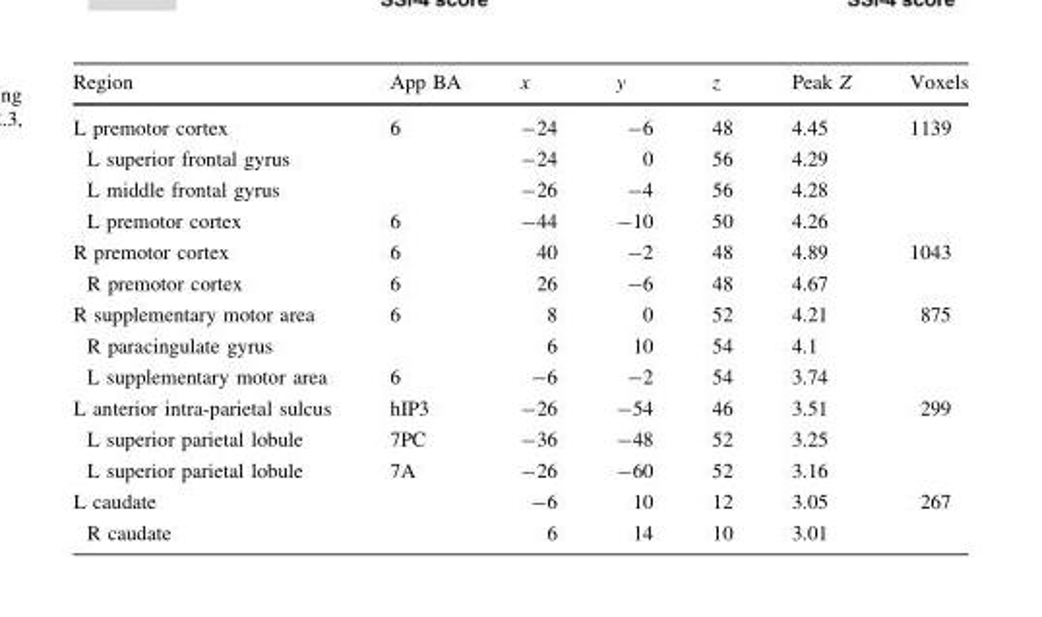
<table><thead><tr><td>Region</td><td>App BA</td><td>x</td><td>y</td><td>z</td><td>Peak Z</td><td>Voxels</td></tr></thead><tbody><tr><td>L premotor cortex</td><td>6</td><td>-24</td><td>-6</td><td>48</td><td>4.45</td><td>1139</td></tr><tr><td>L superior frontal gyrus</td><td></td><td>-24</td><td>0</td><td>56</td><td>4.29</td><td></td></tr><tr><td>L middle frontal gyrus</td><td></td><td>-26</td><td>-4</td><td>56</td><td>4.28</td><td></td></tr><tr><td>L premotor cortex</td><td>6</td><td>-44</td><td>-10</td><td>50</td><td>4.26</td><td></td></tr><tr><td>R premotor cortex</td><td>6</td><td>40</td><td>-2</td><td>48</td><td>4.89</td><td>1043</td></tr><tr><td>R premotor cortex</td><td>6</td><td>26</td><td>-6</td><td>48</td><td>4.67</td><td></td></tr><tr><td>R supplementary motor area</td><td>6</td><td>8</td><td>0</td><td>52</td><td>4.21</td><td>875</td></tr><tr><td>R paracingulate gyrus</td><td></td><td>6</td><td>10</td><td>54</td><td>4.1</td><td></td></tr><tr><td>L supplementary motor area</td><td>6</td><td>-6</td><td>-2</td><td>54</td><td>3.74</td><td></td></tr><tr><td>L anterior intra-parietal sulcus</td><td>hIP3</td><td>-26</td><td>-54</td><td>46</td><td>3.51</td><td>299</td></tr><tr><td>L superior parietal lobule</td><td>7PC</td><td>-36</td><td>-48</td><td>52</td><td>3.25</td><td></td></tr><tr><td>L superior parietal lobule</td><td>7A</td><td>-26</td><td>-60</td><td>52</td><td>3.16</td><td></td></tr><tr><td>L caudate</td><td></td><td>-6</td><td>10</td><td>12</td><td>3.05</td><td>267</td></tr><tr><td>R caudate</td><td></td><td>6</td><td>14</td><td>10</td><td>3.01</td><td></td></tr></tbody></table>